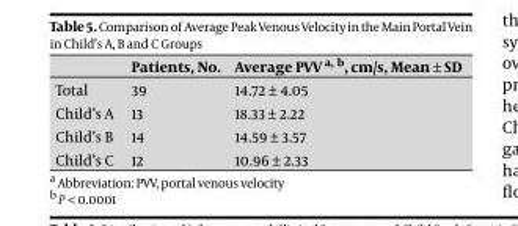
<table><thead><tr><td></td><td>Patients, No.</td><td>Average PVV a, b, cm/s, Mean ± SD</td></tr></thead><tbody><tr><td>Total</td><td>39</td><td>14.72 ± 4.05</td></tr><tr><td>Child’s A</td><td>13</td><td>18.33 ± 2.22</td></tr><tr><td>Child’s B</td><td>14</td><td>14.59 ± 3.57</td></tr><tr><td>Child’s C</td><td>12</td><td>10.96 ± 2.33</td></tr></tbody></table>